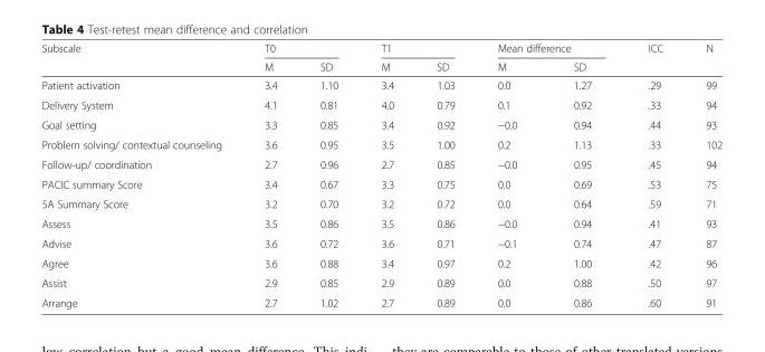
<table><thead><tr><td rowspan="2">Subscale</td><td colspan="2">T0</td><td colspan="2">T1</td><td colspan="2">Mean difference</td><td rowspan="2">ICC</td><td rowspan="2">N</td></tr><tr><td>M</td><td>SD</td><td>M</td><td>SD</td><td>M</td><td>SD</td></tr></thead><tbody><tr><td>Patient activation</td><td>3.4</td><td>1.10</td><td>3.4</td><td>1.03</td><td>0.0</td><td>1.27</td><td>.29</td><td>99</td></tr><tr><td>Delivery System</td><td>4.1</td><td>0.81</td><td>4.0</td><td>0.79</td><td>0.1</td><td>0.92</td><td>.33</td><td>94</td></tr><tr><td>Goal setting</td><td>3.3</td><td>0.85</td><td>3.4</td><td>0.92</td><td>−0.0</td><td>0.94</td><td>.44</td><td>93</td></tr><tr><td>Problem solving/ contextual counseling</td><td>3.6</td><td>0.95</td><td>3.5</td><td>1.00</td><td>0.2</td><td>1.13</td><td>.33</td><td>102</td></tr><tr><td>Follow-up/ coordination</td><td>2.7</td><td>0.96</td><td>2.7</td><td>0.85</td><td>−0.0</td><td>0.95</td><td>.45</td><td>94</td></tr><tr><td>PACIC summary Score</td><td>3.4</td><td>0.67</td><td>3.3</td><td>0.75</td><td>0.0</td><td>0.69</td><td>.53</td><td>75</td></tr><tr><td>5A Summary Score</td><td>3.2</td><td>0.70</td><td>3.2</td><td>0.72</td><td>0.0</td><td>0.64</td><td>.59</td><td>71</td></tr><tr><td>Assess</td><td>3.5</td><td>0.86</td><td>3.5</td><td>0.86</td><td>−0.0</td><td>0.94</td><td>.41</td><td>93</td></tr><tr><td>Advise</td><td>3.6</td><td>0.72</td><td>3.6</td><td>0.71</td><td>−0.1</td><td>0.74</td><td>.47</td><td>87</td></tr><tr><td>Agree</td><td>3.6</td><td>0.88</td><td>3.4</td><td>0.97</td><td>0.2</td><td>1.00</td><td>.42</td><td>96</td></tr><tr><td>Assist</td><td>2.9</td><td>0.85</td><td>2.9</td><td>0.89</td><td>0.0</td><td>0.88</td><td>.50</td><td>97</td></tr><tr><td>Arrange</td><td>2.7</td><td>1.02</td><td>2.7</td><td>0.89</td><td>0.0</td><td>0.86</td><td>.60</td><td>91</td></tr></tbody></table>